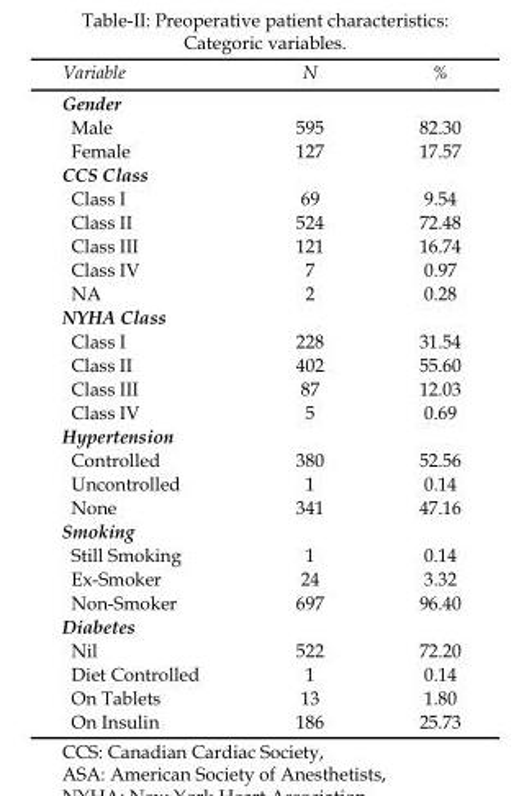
<table><thead><tr><td>Variable</td><td>N</td><td>%</td></tr></thead><tbody><tr><td colspan="3">Gender</td></tr><tr><td>Male</td><td>595</td><td>82.30</td></tr><tr><td>Female</td><td>127</td><td>17.57</td></tr><tr><td colspan="3">CCS Class</td></tr><tr><td>Class I</td><td>69</td><td>9.54</td></tr><tr><td>Class II</td><td>524</td><td>72.48</td></tr><tr><td>Class III</td><td>121</td><td>16.74</td></tr><tr><td>Class IV</td><td>7</td><td>0.97</td></tr><tr><td>NA</td><td>2</td><td>0.28</td></tr><tr><td colspan="3">NYHA Class</td></tr><tr><td>Class I</td><td>228</td><td>31.54</td></tr><tr><td>Class II</td><td>402</td><td>55.60</td></tr><tr><td>Class III</td><td>87</td><td>12.03</td></tr><tr><td>Class IV</td><td>5</td><td>0.69</td></tr><tr><td colspan="3">Hypertension</td></tr><tr><td>Controlled</td><td>380</td><td>52.56</td></tr><tr><td>Uncontrolled</td><td>1</td><td>0.14</td></tr><tr><td>None</td><td>341</td><td>47.16</td></tr><tr><td colspan="3">Smoking</td></tr><tr><td>Still Smoking</td><td>1</td><td>0.14</td></tr><tr><td>Ex-Smoker</td><td>24</td><td>3.32</td></tr><tr><td>Non-Smoker</td><td>697</td><td>96.40</td></tr><tr><td colspan="3">Diabetes</td></tr><tr><td>Nil</td><td>522</td><td>72.20</td></tr><tr><td>Diet Controlled</td><td>1</td><td>0.14</td></tr><tr><td>On Tablets</td><td>13</td><td>1.80</td></tr><tr><td>On Insulin</td><td>186</td><td>25.73</td></tr></tbody></table>